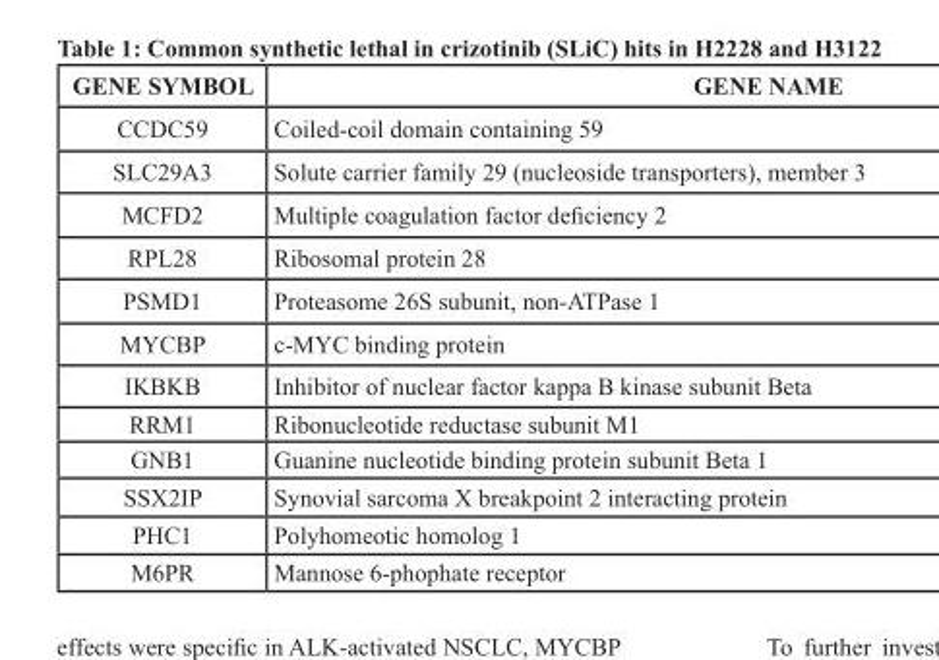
<table><thead><tr><td>GENE SYMBOL</td><td>GENE NAME</td></tr></thead><tbody><tr><td>CCDC59</td><td>Coiled-coil domain containing 59</td></tr><tr><td>SLC29A3</td><td>Solute carrier family 29 (nucleoside transporters), member 3</td></tr><tr><td>MCFD2</td><td>Multiple coagulation factor deficiency 2</td></tr><tr><td>RPL28</td><td>Ribosomal protein 28</td></tr><tr><td>PSMD1</td><td>Proteasome 26S subunit, non-ATPase 1</td></tr><tr><td>MYCBP</td><td>c-MYC binding protein</td></tr><tr><td>IKBKB</td><td>Inhibitor of nuclear factor kappa B kinase subunit Beta</td></tr><tr><td>RRM1</td><td>Ribonucleotide reductase subunit M1</td></tr><tr><td>GNB1</td><td>Guanine nucleotide binding protein subunit Beta 1</td></tr><tr><td>SSX2IP</td><td>Synovial sarcoma X breakpoint 2 interacting protein</td></tr><tr><td>PHC1</td><td>Polyhomeotic homolog 1</td></tr><tr><td>M6PR</td><td>Mannose 6-phophate receptor</td></tr></tbody></table>